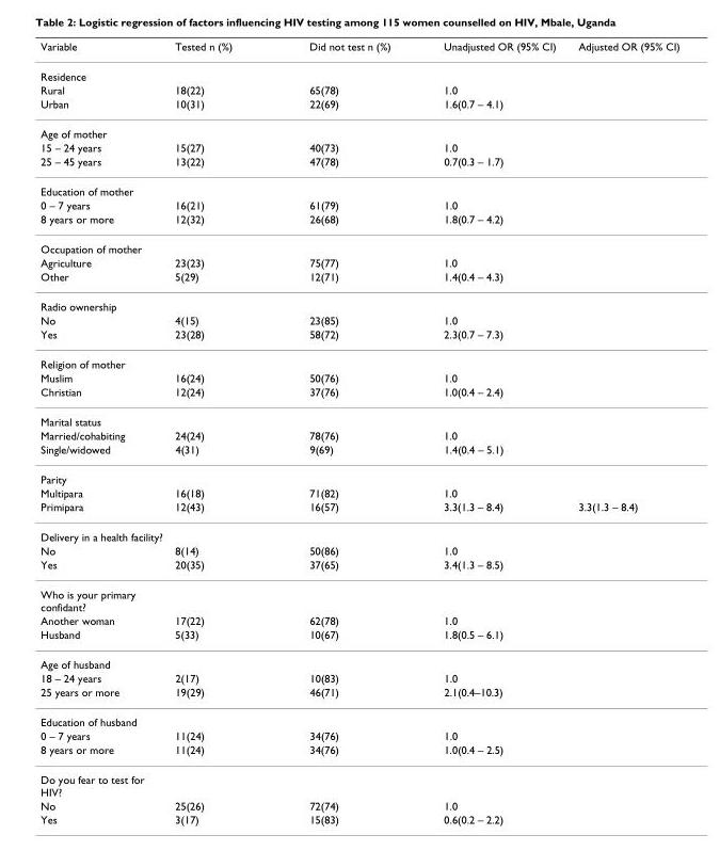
<table><thead><tr><td>Variable</td><td>Tested n (%)</td><td>Did not test n (%)</td><td>Unadjusted OR (95% CI)</td><td>Adjusted OR (95% CI)</td></tr></thead><tbody><tr><td colspan="5">Residence</td></tr><tr><td>Rural</td><td>18(22)</td><td>65(78)</td><td>1.0</td><td></td></tr><tr><td>Urban</td><td>10(31)</td><td>22(69)</td><td>1.6(0.7 – 4.1)</td><td></td></tr><tr><td colspan="5">Age of mother</td></tr><tr><td>15 – 24 years</td><td>15(27)</td><td>40(73)</td><td>1.0</td><td></td></tr><tr><td>25 – 45 years</td><td>13(22)</td><td>47(78)</td><td>0.7(0.3 – 1.7)</td><td></td></tr><tr><td colspan="5">Education of mother</td></tr><tr><td>0 – 7 years</td><td>16(21)</td><td>61(79)</td><td>1.0</td><td></td></tr><tr><td>8 years or more</td><td>12(32)</td><td>26(68)</td><td>1.8(0.7 – 4.2)</td><td></td></tr><tr><td colspan="5">Occupation of mother</td></tr><tr><td>Agriculture</td><td>23(23)</td><td>75(77)</td><td>1.0</td><td></td></tr><tr><td>Other</td><td>5(29)</td><td>12(71)</td><td>1.4(0.4 – 4.3)</td><td></td></tr><tr><td colspan="5">Radio ownership</td></tr><tr><td>No</td><td>4(15)</td><td>23(85)</td><td>1.0</td><td></td></tr><tr><td>Yes</td><td>23(28)</td><td>58(72)</td><td>2.3(0.7 – 7.3)</td><td></td></tr><tr><td colspan="5">Religion of mother</td></tr><tr><td>Muslim</td><td>16(24)</td><td>50(76)</td><td>1.0</td><td></td></tr><tr><td>Christian</td><td>12(24)</td><td>37(76)</td><td>1.0(0.4 – 2.4)</td><td></td></tr><tr><td colspan="5">Marital status</td></tr><tr><td>Married/cohabiting</td><td>24(24)</td><td>78(76)</td><td>1.0</td><td></td></tr><tr><td>Single/widowed</td><td>4(31)</td><td>9(69)</td><td>1.4(0.4 – 5.1)</td><td></td></tr><tr><td colspan="5">Parity</td></tr><tr><td>Multipara</td><td>16(18)</td><td>71(82)</td><td>1.0</td><td></td></tr><tr><td>Primipara</td><td>12(43)</td><td>16(57)</td><td>3.3(1.3 – 8.4)</td><td>3.3(1.3 – 8.4)</td></tr><tr><td colspan="5">Delivery in a health facility?</td></tr><tr><td>No</td><td>8(14)</td><td>50(86)</td><td>1.0</td><td></td></tr><tr><td>Yes</td><td>20(35)</td><td>37(65)</td><td>3.4(1.3 – 8.5)</td><td></td></tr><tr><td colspan="5">Who is your primary confidant?</td></tr><tr><td>Another woman</td><td>17(22)</td><td>62(78)</td><td>1.0</td><td></td></tr><tr><td>Husband</td><td>5(33)</td><td>10(67)</td><td>1.8(0.5 – 6.1)</td><td></td></tr><tr><td colspan="5">Age of husband</td></tr><tr><td>18 – 24 years</td><td>2(17)</td><td>10(83)</td><td>1.0</td><td></td></tr><tr><td>25 years or more</td><td>19(29)</td><td>46(71)</td><td>2.1(0.4–10.3)</td><td></td></tr><tr><td colspan="5">Education of husband</td></tr><tr><td>0 – 7 years</td><td>11(24)</td><td>34(76)</td><td>1.0</td><td></td></tr><tr><td>8 years or more</td><td>11(24)</td><td>34(76)</td><td>1.0(0.4 – 2.5)</td><td></td></tr><tr><td colspan="5">Do you fear to test for HIV?</td></tr><tr><td>No</td><td>25(26)</td><td>72(74)</td><td>1.0</td><td></td></tr><tr><td>Yes</td><td>3(17)</td><td>15(83)</td><td>0.6(0.2 – 2.2)</td><td></td></tr></tbody></table>